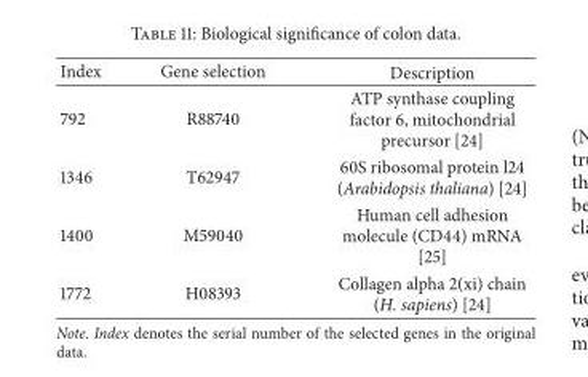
<table><thead><tr><td>Index</td><td>Gene selection</td><td>Description</td></tr></thead><tbody><tr><td>792</td><td>R88740</td><td>ATP synthase coupling factor 6, mitochondrial precursor [24]</td></tr><tr><td>1346</td><td>T62947</td><td>60S ribosomal protein l24 (Arabidopsis thaliana) [24]</td></tr><tr><td>1400</td><td>M59040</td><td>Human cell adhesion molecule (CD44) mRNA [25]</td></tr><tr><td>1772</td><td>H08393</td><td>Collagen alpha 2(xi) chain (H. sapiens) [24]</td></tr></tbody></table>